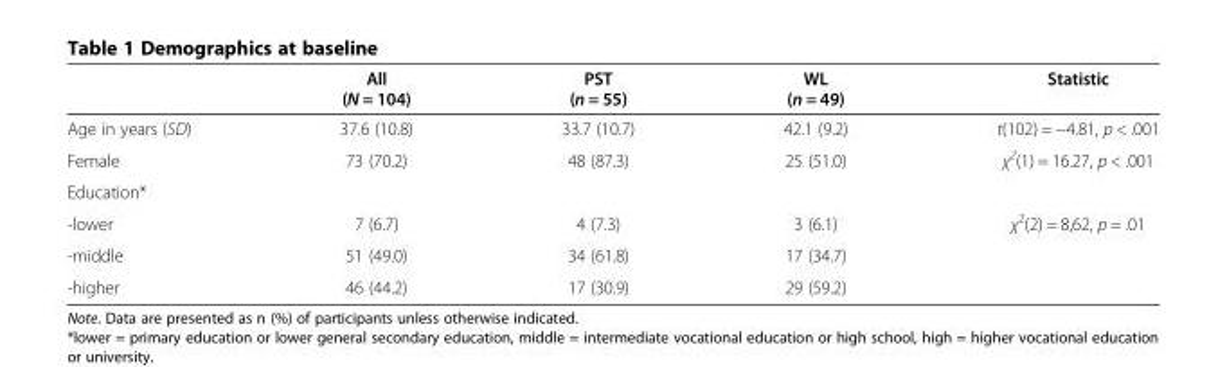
<table><thead><tr><td></td><td>All (N = 104)</td><td>PST (n = 55)</td><td>WL (n = 49)</td><td>Statistic</td></tr></thead><tbody><tr><td>Age in years (SD)</td><td>37.6 (10.8)</td><td>33.7 (10.7)</td><td>42.1 (9.2)</td><td>t(102) = −4.81, p &lt; .001</td></tr><tr><td>Female</td><td>73 (70.2)</td><td>48 (87.3)</td><td>25 (51.0)</td><td>χ<sup>2</sup>(1) = 16.27, p &lt; .001</td></tr><tr><td colspan="5">Education*</td></tr><tr><td>-lower</td><td>7 (6.7)</td><td>4 (7.3)</td><td>3 (6.1)</td><td>χ<sup>2</sup>(2) = 8,62, p = .01</td></tr><tr><td>-middle</td><td>51 (49.0)</td><td>34 (61.8)</td><td>17 (34.7)</td><td></td></tr><tr><td>-higher</td><td>46 (44.2)</td><td>17 (30.9)</td><td>29 (59.2)</td><td></td></tr></tbody></table>